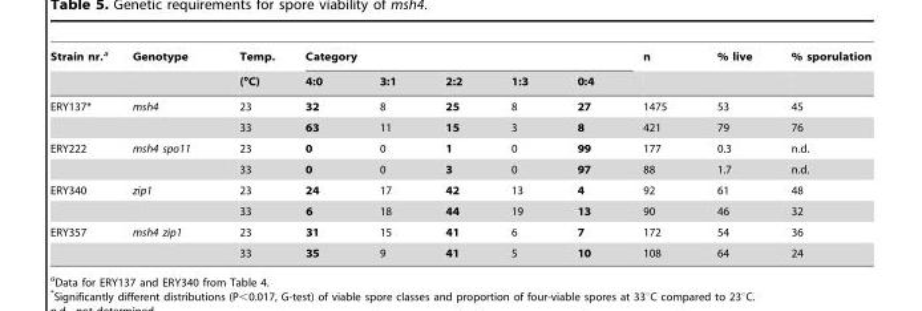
<table><thead><tr><td rowspan="2">Strain nr.<sup>a</sup></td><td rowspan="2">Genotype</td><td rowspan="2">Temp. (°C)</td><td colspan="5">Category</td><td rowspan="2">n</td><td rowspan="2">% live</td><td rowspan="2">% sporulation</td></tr><tr><td>4:0</td><td>3:1</td><td>2:2</td><td>1:3</td><td>0:4</td></tr></thead><tbody><tr><td rowspan="2">ERY137*</td><td>msh4</td><td>23</td><td>32</td><td>8</td><td>25</td><td>8</td><td>27</td><td>1475</td><td>53</td><td>45</td></tr><tr><td></td><td>33</td><td>63</td><td>11</td><td>15</td><td>3</td><td>8</td><td>421</td><td>79</td><td>76</td></tr><tr><td rowspan="2">ERY222</td><td>msh4 spo11</td><td>23</td><td>0</td><td>0</td><td>1</td><td>0</td><td>99</td><td>177</td><td>0.3</td><td>n.d.</td></tr><tr><td></td><td>33</td><td>0</td><td>0</td><td>3</td><td>0</td><td>97</td><td>88</td><td>1.7</td><td>n.d.</td></tr><tr><td rowspan="2">ERY340</td><td>zip1</td><td>23</td><td>24</td><td>17</td><td>42</td><td>13</td><td>4</td><td>92</td><td>61</td><td>48</td></tr><tr><td></td><td>33</td><td>6</td><td>18</td><td>44</td><td>19</td><td>13</td><td>90</td><td>46</td><td>32</td></tr><tr><td rowspan="2">ERY357</td><td>msh4 zip1</td><td>23</td><td>31</td><td>15</td><td>41</td><td>6</td><td>7</td><td>172</td><td>54</td><td>36</td></tr><tr><td></td><td>33</td><td>35</td><td>9</td><td>41</td><td>5</td><td>10</td><td>108</td><td>64</td><td>24</td></tr></tbody></table>